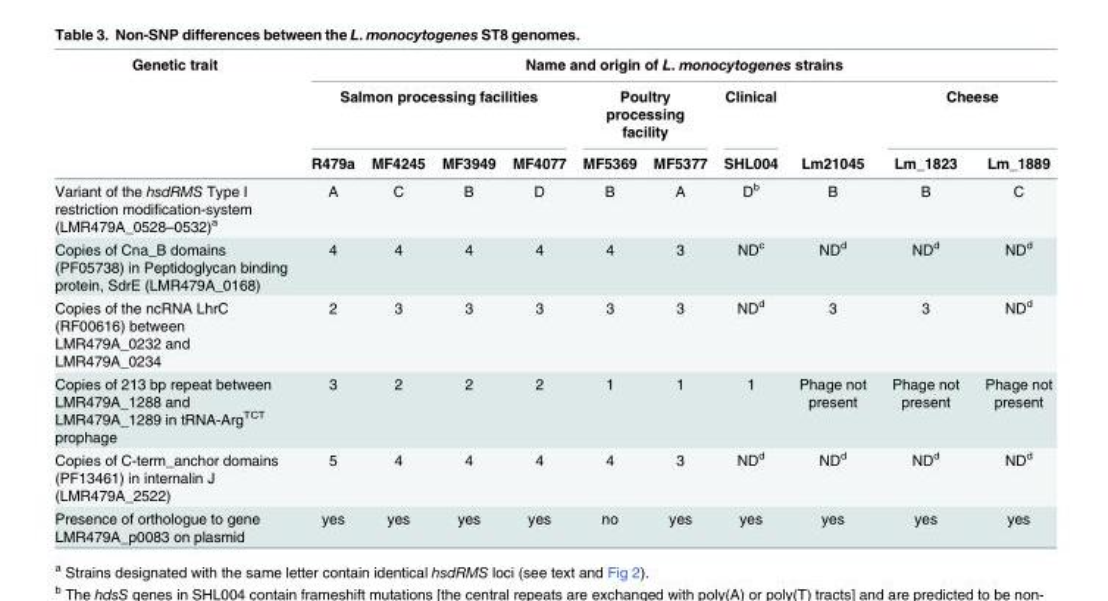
<table><thead><tr><td rowspan="3">Genetic trait</td><td colspan="10">Name and origin of L. monocytogenes strains</td></tr><tr><td colspan="4">Salmon processing facilities</td><td colspan="2">Poultry processing facility</td><td rowspan="2">Clinical SHL004</td><td rowspan="2">Lm21045</td><td colspan="2">Cheese</td></tr><tr><td>R479a</td><td>MF4245</td><td>MF3949</td><td>MF4077</td><td>MF5369</td><td>MF5377</td><td>Lm_1823</td><td>Lm_1889</td></tr></thead><tbody><tr><td>Variant of the hsdRMS Type I restriction modification-system (LMR479A_0528–0532)<sup>a</sup></td><td>A</td><td>C</td><td>B</td><td>D</td><td>B</td><td>A</td><td>D<sup>b</sup></td><td>B</td><td>B</td><td>C</td></tr><tr><td>Copies of Cna_B domains (PF05738) in Peptidoglycan binding protein, SdrE (LMR479A_0168)</td><td>4</td><td>4</td><td>4</td><td>4</td><td>4</td><td>3</td><td>ND<sup>c</sup></td><td>ND<sup>d</sup></td><td>ND<sup>d</sup></td><td>ND<sup>d</sup></td></tr><tr><td>Copies of the ncRNA LhrC (RF00616) between LMR479A_0232 and LMR479A_0234</td><td>2</td><td>3</td><td>3</td><td>3</td><td>3</td><td>3</td><td>ND<sup>d</sup></td><td>3</td><td>3</td><td>ND<sup>d</sup></td></tr><tr><td>Copies of 213 bp repeat between LMR479A_1288 and LMR479A_1289 in tRNA-Arg<sup>TCT</sup> prophage</td><td>3</td><td>2</td><td>2</td><td>2</td><td>1</td><td>1</td><td>1</td><td>Phage not present</td><td>Phage not present</td><td>Phage not present</td></tr><tr><td>Copies of C-term_anchor domains (PF13461) in internalin J (LMR479A_2522)</td><td>5</td><td>4</td><td>4</td><td>4</td><td>4</td><td>3</td><td>ND<sup>d</sup></td><td>ND<sup>d</sup></td><td>ND<sup>d</sup></td><td>ND<sup>d</sup></td></tr><tr><td>Presence of orthologue to gene LMR479A_p0083 on plasmid</td><td>yes</td><td>yes</td><td>yes</td><td>yes</td><td>no</td><td>yes</td><td>yes</td><td>yes</td><td>yes</td><td>yes</td></tr></tbody></table>